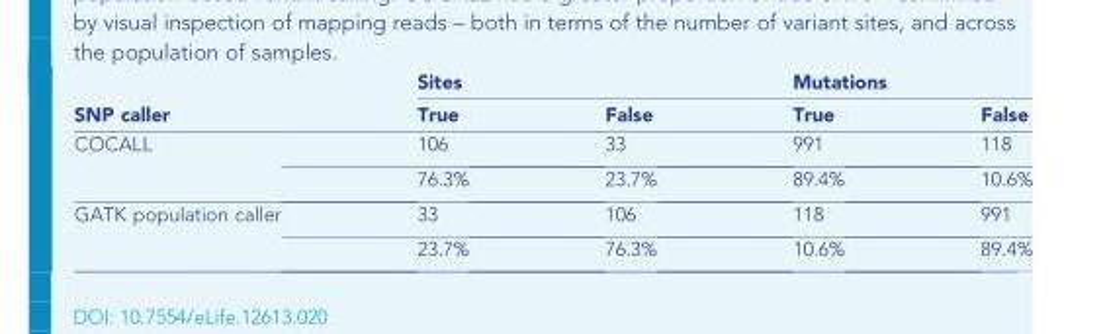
<table><thead><tr><td rowspan="2">SNP caller</td><td colspan="2">Sites</td><td colspan="2">Mutations</td></tr><tr><td>True</td><td>False</td><td>True</td><td>False</td></tr></thead><tbody><tr><td rowspan="2">COCALL</td><td>106</td><td>33</td><td>991</td><td>118</td></tr><tr><td>76.3%</td><td>23.7%</td><td>89.4%</td><td>10.6%</td></tr><tr><td rowspan="2">GATK population caller</td><td>33</td><td>106</td><td>118</td><td>991</td></tr><tr><td>23.7%</td><td>76.3%</td><td>10.6%</td><td>89.4%</td></tr></tbody></table>